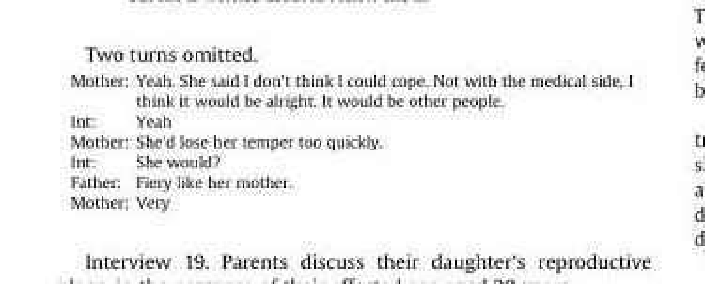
<table><tbody><tr><td>Mother:</td><td>Yeah. She said I don&#x27;t think I could cope. Not with the medical side, I think it would be alright. It would be other people.</td></tr><tr><td>Int:</td><td>Yeah</td></tr><tr><td>Mother:</td><td>She&#x27;d lose her temper too quickly.</td></tr><tr><td>Int:</td><td>She would?</td></tr><tr><td>Father:</td><td>Fiery like her mother.</td></tr><tr><td>Mother:</td><td>Very</td></tr></tbody></table>